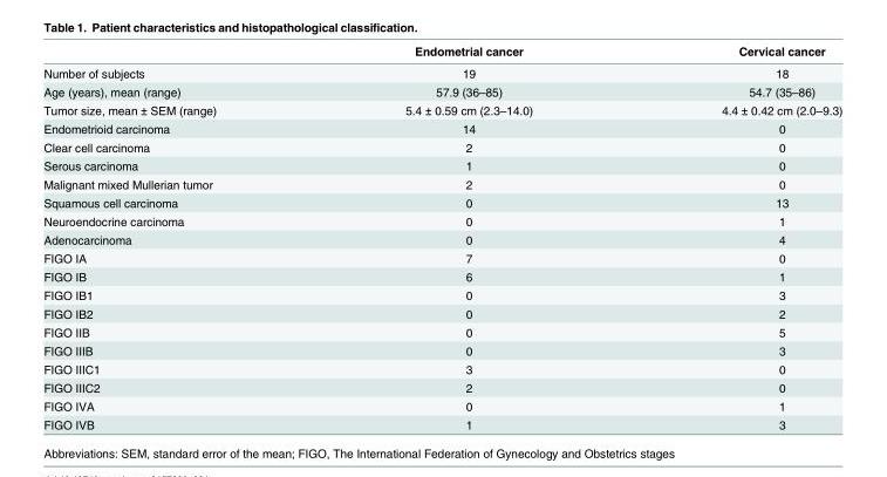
<table><thead><tr><td></td><td>Endometrial cancer</td><td>Cervical cancer</td></tr></thead><tbody><tr><td>Number of subjects</td><td>19</td><td>18</td></tr><tr><td>Age (years), mean (range)</td><td>57.9 (36–85)</td><td>54.7 (35–86)</td></tr><tr><td>Tumor size, mean ± SEM (range)</td><td>5.4 ± 0.59 cm (2.3–14.0)</td><td>4.4 ± 0.42 cm (2.0–9.3)</td></tr><tr><td>Endometrioid carcinoma</td><td>14</td><td>0</td></tr><tr><td>Clear cell carcinoma</td><td>2</td><td>0</td></tr><tr><td>Serous carcinoma</td><td>1</td><td>0</td></tr><tr><td>Malignant mixed Mullerian tumor</td><td>2</td><td>0</td></tr><tr><td>Squamous cell carcinoma</td><td>0</td><td>13</td></tr><tr><td>Neuroendocrine carcinoma</td><td>0</td><td>1</td></tr><tr><td>Adenocarcinoma</td><td>0</td><td>4</td></tr><tr><td>FIGO IA</td><td>7</td><td>0</td></tr><tr><td>FIGO IB</td><td>6</td><td>1</td></tr><tr><td>FIGO IB1</td><td>0</td><td>3</td></tr><tr><td>FIGO IB2</td><td>0</td><td>2</td></tr><tr><td>FIGO IIB</td><td>0</td><td>5</td></tr><tr><td>FIGO IIIB</td><td>0</td><td>3</td></tr><tr><td>FIGO IIIC1</td><td>3</td><td>0</td></tr><tr><td>FIGO IIIC2</td><td>2</td><td>0</td></tr><tr><td>FIGO IVA</td><td>0</td><td>1</td></tr><tr><td>FIGO IVB</td><td>1</td><td>3</td></tr></tbody></table>